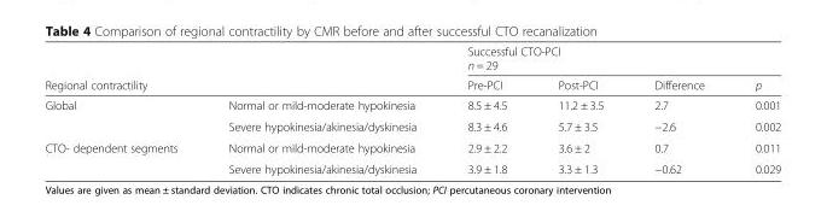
<table><thead><tr><td></td><td></td><td colspan="4">Successful CTO-PCI n = 29</td></tr><tr><td colspan="2">Regional contractility</td><td>Pre-PCI</td><td>Post-PCI</td><td>Difference</td><td>p</td></tr></thead><tbody><tr><td rowspan="2">Global</td><td>Normal or mild-moderate hypokinesia</td><td>8.5 ± 4.5</td><td>11.2 ± 3.5</td><td>2.7</td><td>0.001</td></tr><tr><td>Severe hypokinesia/akinesia/dyskinesia</td><td>8.3 ± 4.6</td><td>5.7 ± 3.5</td><td>−2.6</td><td>0.002</td></tr><tr><td rowspan="2">CTO- dependent segments</td><td>Normal or mild-moderate hypokinesia</td><td>2.9 ± 2.2</td><td>3.6 ± 2</td><td>0.7</td><td>0.011</td></tr><tr><td>Severe hypokinesia/akinesia/dyskinesia</td><td>3.9 ± 1.8</td><td>3.3 ± 1.3</td><td>−0.62</td><td>0.029</td></tr></tbody></table>